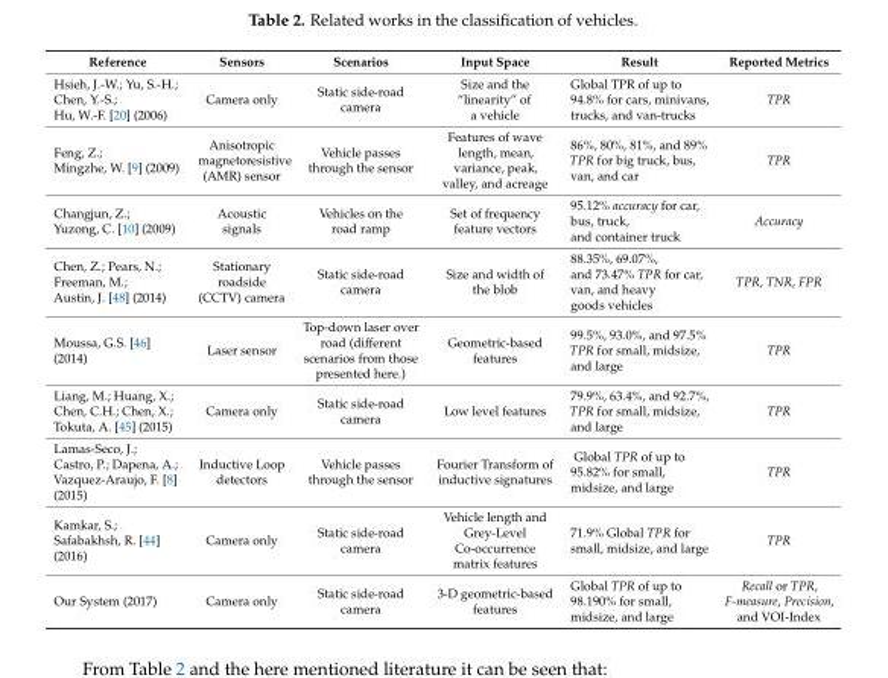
<table><thead><tr><td>Reference</td><td>Sensors</td><td>Scenarios</td><td>Input Space</td><td>Result</td><td>Reported Metrics</td></tr></thead><tbody><tr><td>Hsieh, J.-W.; Yu, S.-H.; Chen, Y.-S.; Hu, W.-F. [20] (2006)</td><td>Camera only</td><td>Static side-road camera</td><td>Size and the “linearity” of a vehicle</td><td>Global TPR of up to 94.8% for cars, minivans, trucks, and van-trucks</td><td>TPR</td></tr><tr><td>Feng, Z.; Mingzhe, W. [9] (2009)</td><td>Anisotropic magnetoresistive (AMR) sensor</td><td>Vehicle passes through the sensor</td><td>Features of wave length, mean, variance, peak, valley, and acreage</td><td>86%, 80%, 81%, and 89% TPR for big truck, bus, van, and car</td><td>TPR</td></tr><tr><td>Changjun, Z.; Yuzong, C. [10] (2009)</td><td>Acoustic signals</td><td>Vehicles on the road ramp</td><td>Set of frequency feature vectors</td><td>95.12% accuracy for car, bus, truck, and container truck</td><td>Accuracy</td></tr><tr><td>Chen, Z.; Pears, N.; Freeman, M.; Austin, J. [48] (2014)</td><td>Stationary roadside (CCTV) camera</td><td>Static side-road camera</td><td>Size and width of the blob</td><td>88.35%, 69.07%, and 73.47% TPR for car, van, and heavy goods vehicles</td><td>TPR, TNR, FPR</td></tr><tr><td>Moussa, G.S. [46] (2014)</td><td>Laser sensor</td><td>Top-down laser over road (different scenarios from those presented here.)</td><td>Geometric-based features</td><td>99.5%, 93.0%, and 97.5% TPR for small, midsize, and large</td><td>TPR</td></tr><tr><td>Liang, M.; Huang, X.; Chen, C.H.; Chen, X.; Tokuta, A. [45] (2015)</td><td>Camera only</td><td>Static side-road camera</td><td>Low level features</td><td>79.9%, 63.4%, and 92.7%, TPR for small, midsize, and large</td><td>TPR</td></tr><tr><td>Lamas-Seco, J.; Castro, P.; Dapena, A.; Vazquez-Araujo, F. [8] (2015)</td><td>Inductive Loop detectors</td><td>Vehicle passes through the sensor</td><td>Fourier Transform of inductive signatures</td><td>Global TPR of up to 95.82% for small, midsize, and large</td><td>TPR</td></tr><tr><td>Kamkar, S.; Safabakhsh, R. [44] (2016)</td><td>Camera only</td><td>Static side-road camera</td><td>Vehicle length and Grey-Level Co-occurrence matrix features</td><td>71.9% Global TPR for small, midsize, and large</td><td>TPR</td></tr><tr><td>Our System (2017)</td><td>Camera only</td><td>Static side-road camera</td><td>3-D geometric-based features</td><td>Global TPR of up to 98.190% for small, midsize, and large</td><td>Recall or TPR, F-measure, Precision, and VOI-Index</td></tr></tbody></table>